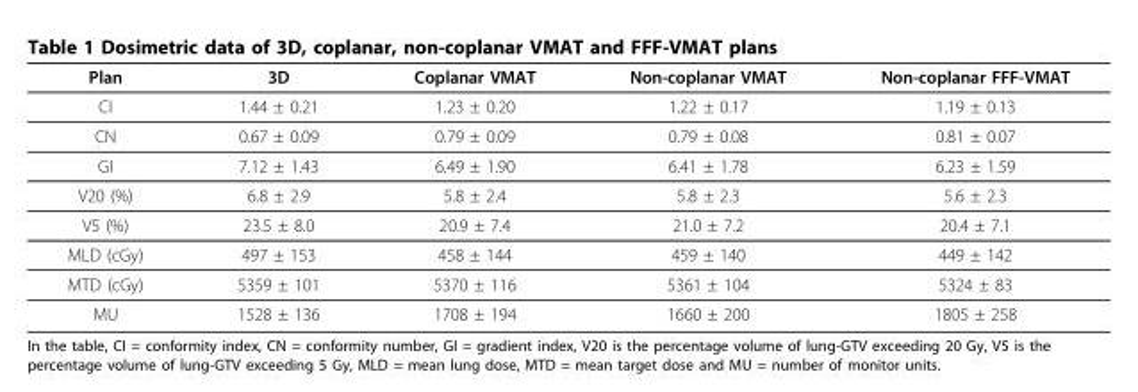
<table><thead><tr><td>Plan</td><td>3D</td><td>Coplanar VMAT</td><td>Non-coplanar VMAT</td><td>Non-coplanar FFF-VMAT</td></tr></thead><tbody><tr><td>CI</td><td>1.44 ± 0.21</td><td>1.23 ± 0.20</td><td>1.22 ± 0.17</td><td>1.19 ± 0.13</td></tr><tr><td>CN</td><td>0.67 ± 0.09</td><td>0.79 ± 0.09</td><td>0.79 ± 0.08</td><td>0.81 ± 0.07</td></tr><tr><td>GI</td><td>7.12 ± 1.43</td><td>6.49 ± 1.90</td><td>6.41 ± 1.78</td><td>6.23 ± 1.59</td></tr><tr><td>V20 (%)</td><td>6.8 ± 2.9</td><td>5.8 ± 2.4</td><td>5.8 ± 2.3</td><td>5.6 ± 2.3</td></tr><tr><td>V5 (%)</td><td>23.5 ± 8.0</td><td>20.9 ± 7.4</td><td>21.0 ± 7.2</td><td>20.4 ± 7.1</td></tr><tr><td>MLD (cGy)</td><td>497 ± 153</td><td>458 ± 144</td><td>459 ± 140</td><td>449 ± 142</td></tr><tr><td>MTD (cGy)</td><td>5359 ± 101</td><td>5370 ± 116</td><td>5361 ± 104</td><td>5324 ± 83</td></tr><tr><td>MU</td><td>1528 ± 136</td><td>1708 ± 194</td><td>1660 ± 200</td><td>1805 ± 258</td></tr></tbody></table>